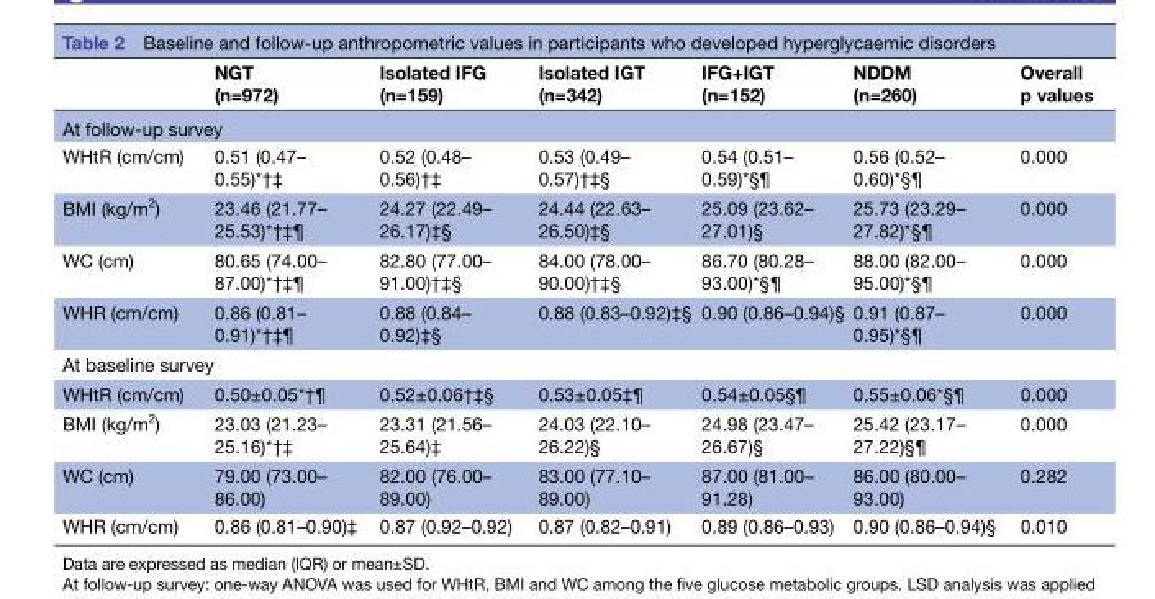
<table><thead><tr><td></td><td>NGT (n=972)</td><td>Isolated IFG (n=159)</td><td>Isolated IGT (n=342)</td><td>IFG+IGT (n=152)</td><td>NDDM (n=260)</td><td>Overall p values</td></tr></thead><tbody><tr><td colspan="7">At follow-up survey</td></tr><tr><td>WHtR (cm/cm)</td><td>0.51 (0.47– 0.55)*†‡</td><td>0.52 (0.48– 0.56)†‡</td><td>0.53 (0.49– 0.57)†‡§</td><td>0.54 (0.51– 0.59)*§¶</td><td>0.56 (0.52– 0.60)*§¶</td><td>0.000</td></tr><tr><td>BMI (kg/m<sup>2</sup>)</td><td>23.46 (21.77– 25.53)*†‡¶</td><td>24.27 (22.49– 26.17)‡§</td><td>24.44 (22.63– 26.50)‡§</td><td>25.09 (23.62– 27.01)§</td><td>25.73 (23.29– 27.82)*§¶</td><td>0.000</td></tr><tr><td>WC (cm)</td><td>80.65 (74.00– 87.00)*†‡¶</td><td>82.80 (77.00– 91.00)†‡§</td><td>84.00 (78.00– 90.00)†‡§</td><td>86.70 (80.28– 93.00)*§¶</td><td>88.00 (82.00– 95.00)*§¶</td><td>0.000</td></tr><tr><td>WHR (cm/cm)</td><td>0.86 (0.81– 0.91)*†‡¶</td><td>0.88 (0.84– 0.92)‡§</td><td>0.88 (0.83–0.92)‡§</td><td>0.90 (0.86–0.94)§</td><td>0.91 (0.87– 0.95)*§¶</td><td>0.000</td></tr><tr><td colspan="7">At baseline survey</td></tr><tr><td>WHtR (cm/cm)</td><td>0.50±0.05*†¶</td><td>0.52±0.06†‡§</td><td>0.53±0.05‡¶</td><td>0.54±0.05§¶</td><td>0.55±0.06*§¶</td><td>0.000</td></tr><tr><td>BMI (kg/m<sup>2</sup>)</td><td>23.03 (21.23– 25.16)*†‡</td><td>23.31 (21.56– 25.64)‡</td><td>24.03 (22.10– 26.22)§</td><td>24.98 (23.47– 26.67)§</td><td>25.42 (23.17– 27.22)§¶</td><td>0.000</td></tr><tr><td>WC (cm)</td><td>79.00 (73.00– 86.00)</td><td>82.00 (76.00– 89.00)</td><td>83.00 (77.10– 89.00)</td><td>87.00 (81.00– 91.28)</td><td>86.00 (80.00– 93.00)</td><td>0.282</td></tr><tr><td>WHR (cm/cm)</td><td>0.86 (0.81–0.90)‡</td><td>0.87 (0.92–0.92)</td><td>0.87 (0.82–0.91)</td><td>0.89 (0.86–0.93)</td><td>0.90 (0.86–0.94)§</td><td>0.010</td></tr></tbody></table>